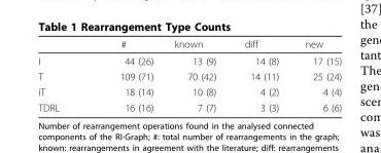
<table><thead><tr><td></td><td>#</td><td>known</td><td>diff</td><td>new</td></tr></thead><tbody><tr><td>I</td><td>44 (26)</td><td>13 (9)</td><td>14 (8)</td><td>17 (15)</td></tr><tr><td>T</td><td>109 (71)</td><td>70 (42)</td><td>14 (11)</td><td>25 (24)</td></tr><tr><td>iT</td><td>18 (14)</td><td>10 (8)</td><td>4 (2)</td><td>4 (4)</td></tr><tr><td>TDRL</td><td>16 (16)</td><td>7 (7)</td><td>3 (3)</td><td>6 (6)</td></tr></tbody></table>